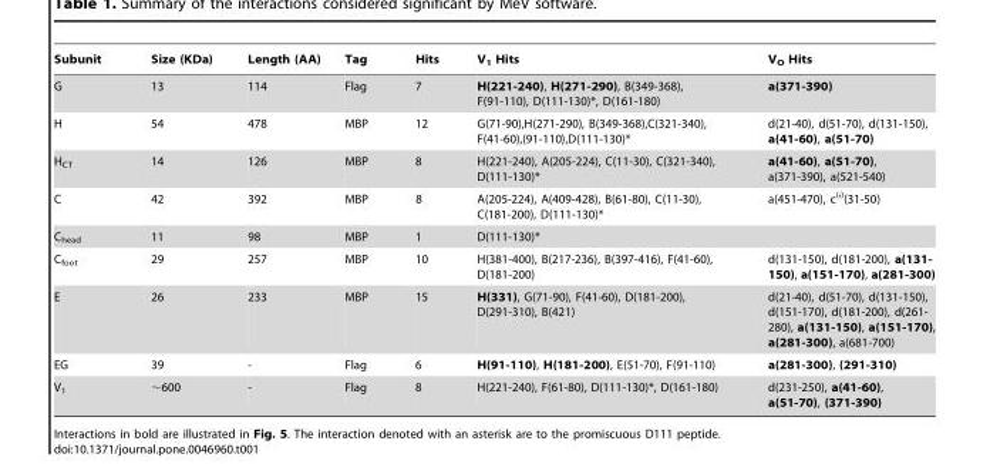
<table><thead><tr><td>Subunit</td><td>Size (KDa)</td><td>Length (AA)</td><td>Tag</td><td>Hits</td><td>V<sub>1</sub> Hits</td><td>V<sub>O</sub> Hits</td></tr></thead><tbody><tr><td>G</td><td>13</td><td>114</td><td>Flag</td><td>7</td><td>H(221-240), H(271-290), B(349-368), F(91-110), D(111-130)*, D(161-180)</td><td>a(371-390)</td></tr><tr><td>H</td><td>54</td><td>478</td><td>MBP</td><td>12</td><td>G(71-90),H(271-290), B(349-368),C(321-340), F(41-60),(91-110),D(111-130)*</td><td>d(21-40), d(51-70), d(131-150), a(41-60), a(51-70)</td></tr><tr><td>H<sub>CT</sub></td><td>14</td><td>126</td><td>MBP</td><td>8</td><td>H(221-240), A(205-224), C(11-30), C(321-340), D(111-130)*</td><td>a(41-60), a(51-70), a(371-390), a(521-540)</td></tr><tr><td>C</td><td>42</td><td>392</td><td>MBP</td><td>8</td><td>A(205-224), A(409-428), B(61-80), C(11-30), C(181-200), D(111-130)*</td><td>a(451-470), c<sup>(</sup>’<sup>)</sup>(31-50)</td></tr><tr><td>C<sub>head</sub></td><td>11</td><td>98</td><td>MBP</td><td>1</td><td>D(111-130)*</td><td></td></tr><tr><td>C<sub>foot</sub></td><td>29</td><td>257</td><td>MBP</td><td>10</td><td>H(381-400), B(217-236), B(397-416), F(41-60), D(181-200)</td><td>d(131-150), d(181-200), a(131- 150), a(151-170), a(281-300)</td></tr><tr><td>E</td><td>26</td><td>233</td><td>MBP</td><td>15</td><td>H(331), G(71-90), F(41-60), D(181-200), D(291-310), B(421)</td><td>d(21-40), d(51-70), d(131-150), d(151-170), d(181-200), d(261- 280), a(131-150), a(151-170), a(281-300), a(681-700)</td></tr><tr><td>EG</td><td>39</td><td>-</td><td>Flag</td><td>6</td><td>H(91-110), H(181-200), E(51-70), F(91-110)</td><td>a(281-300), (291-310)</td></tr><tr><td>V<sub>1</sub></td><td>∼600</td><td>-</td><td>Flag</td><td>8</td><td>H(221-240), F(61-80), D(111-130)*, D(161-180)</td><td>d(231-250), a(41-60), a(51-70), (371-390)</td></tr></tbody></table>